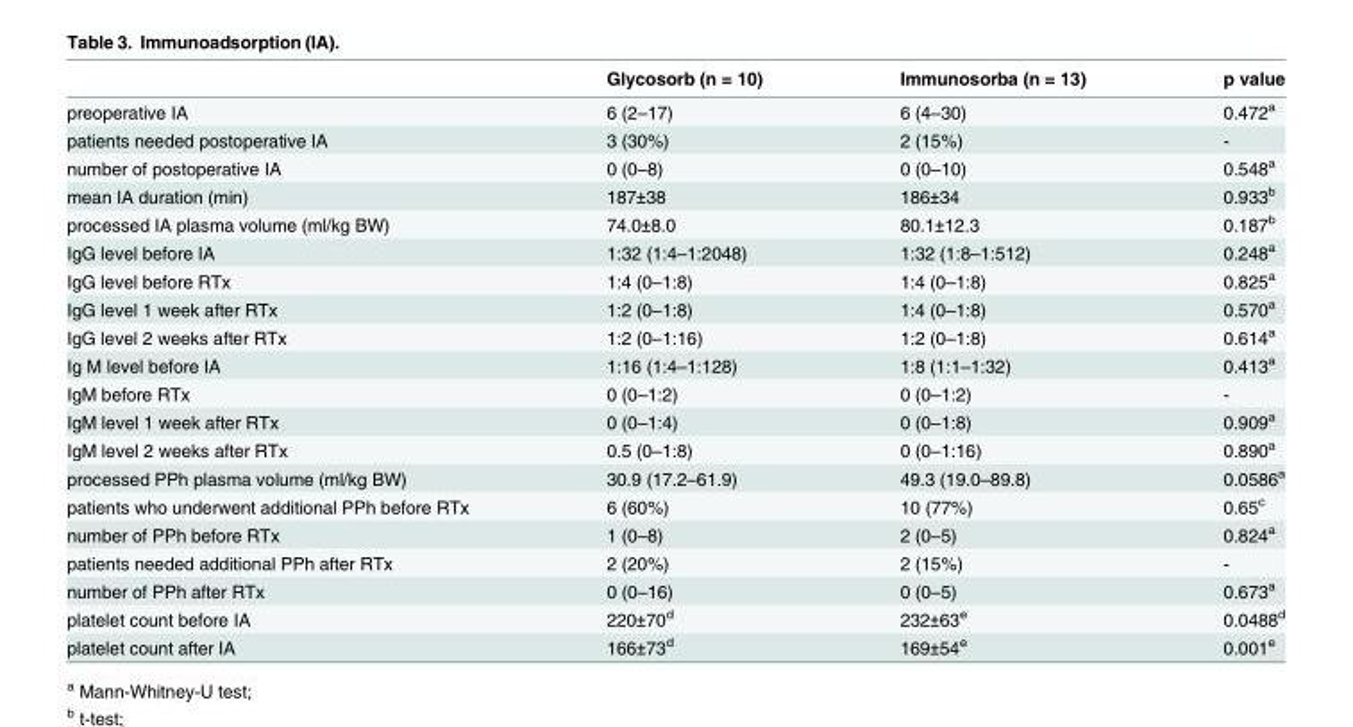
<table><thead><tr><td></td><td>Glycosorb (n = 10)</td><td>Immunosorba (n = 13)</td><td>p value</td></tr></thead><tbody><tr><td>preoperative IA</td><td>6 (2–17)</td><td>6 (4–30)</td><td>0.472<sup>a</sup></td></tr><tr><td>patients needed postoperative IA</td><td>3 (30%)</td><td>2 (15%)</td><td>-</td></tr><tr><td>number of postoperative IA</td><td>0 (0–8)</td><td>0 (0–10)</td><td>0.548<sup>a</sup></td></tr><tr><td>mean IA duration (min)</td><td>187±38</td><td>186±34</td><td>0.933<sup>b</sup></td></tr><tr><td>processed IA plasma volume (ml/kg BW)</td><td>74.0±8.0</td><td>80.1±12.3</td><td>0.187<sup>b</sup></td></tr><tr><td>IgG level before IA</td><td>1:32 (1:4–1:2048)</td><td>1:32 (1:8–1:512)</td><td>0.248<sup>a</sup></td></tr><tr><td>IgG level before RTx</td><td>1:4 (0–1:8)</td><td>1:4 (0–1:8)</td><td>0.825<sup>a</sup></td></tr><tr><td>IgG level 1 week after RTx</td><td>1:2 (0–1:8)</td><td>1:4 (0–1:8)</td><td>0.570<sup>a</sup></td></tr><tr><td>IgG level 2 weeks after RTx</td><td>1:2 (0–1:16)</td><td>1:2 (0–1:8)</td><td>0.614<sup>a</sup></td></tr><tr><td>Ig M level before IA</td><td>1:16 (1:4–1:128)</td><td>1:8 (1:1–1:32)</td><td>0.413<sup>a</sup></td></tr><tr><td>IgM before RTx</td><td>0 (0–1:2)</td><td>0 (0–1:2)</td><td>-</td></tr><tr><td>IgM level 1 week after RTx</td><td>0 (0–1:4)</td><td>0 (0–1:8)</td><td>0.909<sup>a</sup></td></tr><tr><td>IgM level 2 weeks after RTx</td><td>0.5 (0–1:8)</td><td>0 (0–1:16)</td><td>0.890<sup>a</sup></td></tr><tr><td>processed PPh plasma volume (ml/kg BW)</td><td>30.9 (17.2–61.9)</td><td>49.3 (19.0–89.8)</td><td>0.0586<sup>a</sup></td></tr><tr><td>patients who underwent additional PPh before RTx</td><td>6 (60%)</td><td>10 (77%)</td><td>0.65<sup>c</sup></td></tr><tr><td>number of PPh before RTx</td><td>1 (0–8)</td><td>2 (0–5)</td><td>0.824<sup>a</sup></td></tr><tr><td>patients needed additional PPh after RTx</td><td>2 (20%)</td><td>2 (15%)</td><td>-</td></tr><tr><td>number of PPh after RTx</td><td>0 (0–16)</td><td>0 (0–5)</td><td>0.673<sup>a</sup></td></tr><tr><td>platelet count before IA</td><td>220±70<sup>d</sup></td><td>232±63<sup>e</sup></td><td>0.0488<sup>d</sup></td></tr><tr><td>platelet count after IA</td><td>166±73<sup>d</sup></td><td>169±54<sup>e</sup></td><td>0.001<sup>e</sup></td></tr></tbody></table>